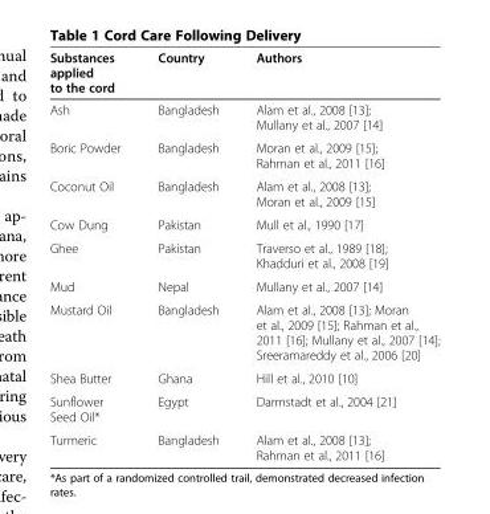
<table><thead><tr><td>Substances applied to the cord</td><td>Country</td><td>Authors</td></tr></thead><tbody><tr><td>Ash</td><td>Bangladesh</td><td>Alam et al., 2008 [13]; Mullany et al., 2007 [14]</td></tr><tr><td>Boric Powder</td><td>Bangladesh</td><td>Moran et al., 2009 [15]; Rahman et al., 2011 [16]</td></tr><tr><td>Coconut Oil</td><td>Bangladesh</td><td>Alam et al., 2008 [13]; Moran et al., 2009 [15]</td></tr><tr><td>Cow Dung</td><td>Pakistan</td><td>Mull et al., 1990 [17]</td></tr><tr><td>Ghee</td><td>Pakistan</td><td>Traverso et al., 1989 [18]; Khadduri et al., 2008 [19]</td></tr><tr><td>Mud</td><td>Nepal</td><td>Mullany et al., 2007 [14]</td></tr><tr><td>Mustard Oil</td><td>Bangladesh</td><td>Alam et al., 2008 [13]; Moran et al., 2009 [15]; Rahman et al., 2011 [16]; Mullany et al., 2007 [14]; Sreeramareddy et al., 2006 [20]</td></tr><tr><td>Shea Butter</td><td>Ghana</td><td>Hill et al., 2010 [10]</td></tr><tr><td>Sunflower Seed Oil*</td><td>Egypt</td><td>Darmstadt et al., 2004 [21]</td></tr><tr><td>Turmeric</td><td>Bangladesh</td><td>Alam et al., 2008 [13]; Rahman et al., 2011 [16]</td></tr></tbody></table>